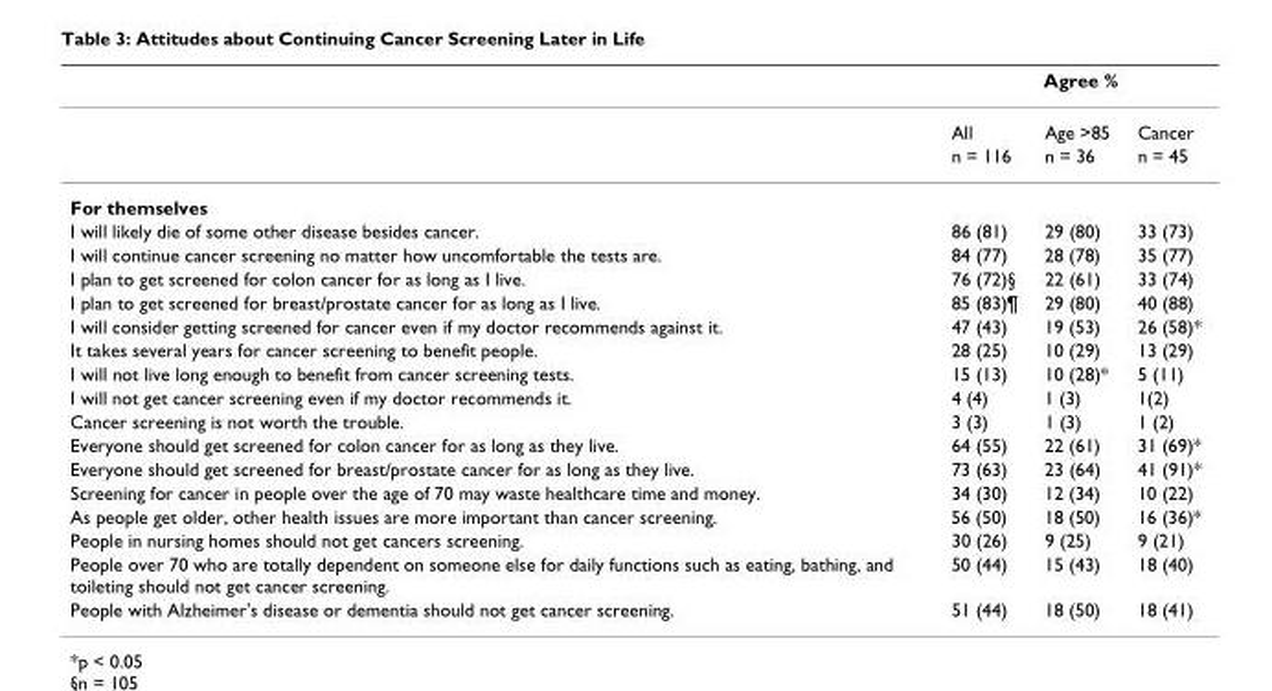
<table><thead><tr><td rowspan="2"></td><td colspan="3">Agree %</td></tr><tr><td>All</td><td>Age &gt;85</td><td>Cancer</td></tr></thead><tbody><tr><td></td><td>n = 116</td><td>n = 36</td><td>n = 45</td></tr><tr><td colspan="4">For themselves</td></tr><tr><td>I will likely die of some other disease besides cancer.</td><td>86 (81)</td><td>29 (80)</td><td>33 (73)</td></tr><tr><td>I will continue cancer screening no matter how uncomfortable the tests are.</td><td>84 (77)</td><td>28 (78)</td><td>35 (77)</td></tr><tr><td>I plan to get screened for colon cancer for as long as I live.</td><td>76 (72)§</td><td>22 (61)</td><td>33 (74)</td></tr><tr><td>I plan to get screened for breast/prostate cancer for as long as I live.</td><td>85 (83)¶</td><td>29 (80)</td><td>40 (88)</td></tr><tr><td>I will consider getting screened for cancer even if my doctor recommends against it.</td><td>47 (43)</td><td>19 (53)</td><td>26 (58)*</td></tr><tr><td>It takes several years for cancer screening to benefit people.</td><td>28 (25)</td><td>10 (29)</td><td>13 (29)</td></tr><tr><td>I will not live long enough to benefit from cancer screening tests.</td><td>15 (13)</td><td>10 (28)*</td><td>5 (11)</td></tr><tr><td>I will not get cancer screening even if my doctor recommends it.</td><td>4 (4)</td><td>1 (3)</td><td>1(2)</td></tr><tr><td>Cancer screening is not worth the trouble.</td><td>3 (3)</td><td>1 (3)</td><td>1 (2)</td></tr><tr><td>Everyone should get screened for colon cancer for as long as they live.</td><td>64 (55)</td><td>22 (61)</td><td>31 (69)*</td></tr><tr><td>Everyone should get screened for breast/prostate cancer for as long as they live.</td><td>73 (63)</td><td>23 (64)</td><td>41 (91)*</td></tr><tr><td>Screening for cancer in people over the age of 70 may waste healthcare time and money.</td><td>34 (30)</td><td>12 (34)</td><td>10 (22)</td></tr><tr><td>As people get older, other health issues are more important than cancer screening.</td><td>56 (50)</td><td>18 (50)</td><td>16 (36)*</td></tr><tr><td>People in nursing homes should not get cancers screening.</td><td>30 (26)</td><td>9 (25)</td><td>9 (21)</td></tr><tr><td>People over 70 who are totally dependent on someone else for daily functions such as eating, bathing, and toileting should not get cancer screening.</td><td>50 (44)</td><td>15 (43)</td><td>18 (40)</td></tr><tr><td>People with Alzheimer&#x27;s disease or dementia should not get cancer screening.</td><td>51 (44)</td><td>18 (50)</td><td>18 (41)</td></tr></tbody></table>